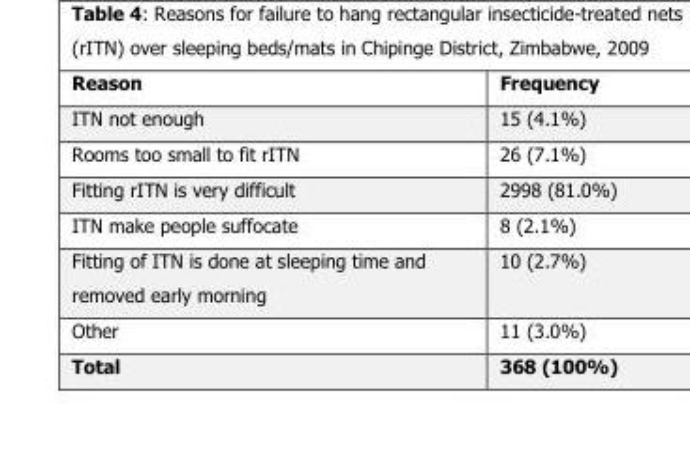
<table><thead><tr><td>Reason</td><td>Frequency</td></tr></thead><tbody><tr><td>ITN not enough</td><td>15 (4.1%)</td></tr><tr><td>Rooms too small to fit rITN</td><td>26 (7.1%)</td></tr><tr><td>Fitting rITN is very difficult</td><td>2998 (81.0%)</td></tr><tr><td>ITN make people suffocate</td><td>8 (2.1%)</td></tr><tr><td>Fitting of ITN is done at sleeping time and removed early morning</td><td>10 (2.7%)</td></tr><tr><td>Other</td><td>11 (3.0%)</td></tr><tr><td>Total</td><td>368 (100%)</td></tr></tbody></table>